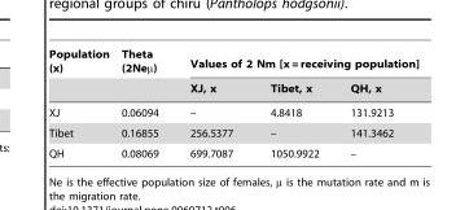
<table><thead><tr><td rowspan="2">Population (x)</td><td rowspan="2">Theta (2Neµ)</td><td colspan="3">Values of 2 Nm [x = receiving population]</td></tr><tr><td>XJ, x</td><td>Tibet, x</td><td>QH, x</td></tr></thead><tbody><tr><td>XJ</td><td>0.06094</td><td>–</td><td>4.8418</td><td>131.9213</td></tr><tr><td>Tibet</td><td>0.16855</td><td>256.5377</td><td>–</td><td>141.3462</td></tr><tr><td>QH</td><td>0.08069</td><td>699.7087</td><td>1050.9922</td><td>–</td></tr></tbody></table>